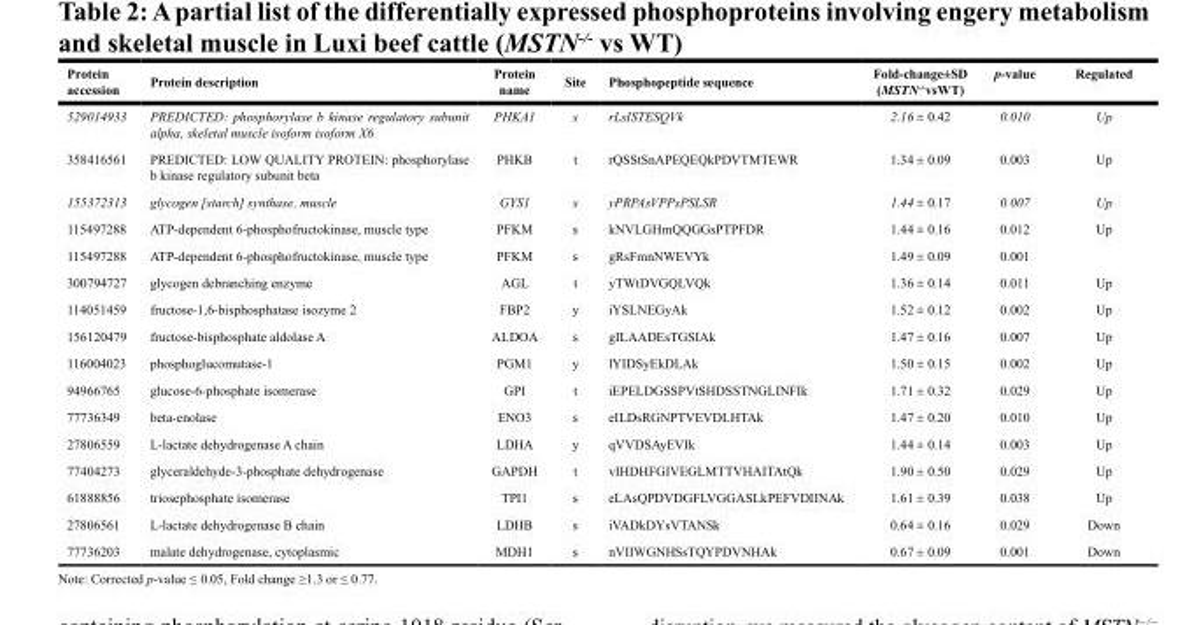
<table><thead><tr><td>Protein accession</td><td>Protein description</td><td>Protein name</td><td>Site</td><td>Phosphopeptide sequence</td><td>Fold-change±SD (MSTN<sup>-/-</sup>vsWT)</td><td>p-value</td><td>Regulated</td></tr></thead><tbody><tr><td>529014933</td><td>PREDICTED: phosphorylase b kinase regulatory subunit alpha, skeletal muscle isoform isoform X6</td><td>PHKA1</td><td>s</td><td>rLsISTESQVk</td><td>2.16 ± 0.42</td><td>0.010</td><td>Up</td></tr><tr><td>358416561</td><td>PREDICTED: LOW QUALITY PROTEIN: phosphorylase b kinase regulatory subunit beta</td><td>PHKB</td><td>t</td><td>rQSStSnAPEQEQkPDVTMTEWR</td><td>1.34 ± 0.09</td><td>0.003</td><td>Up</td></tr><tr><td>155372313</td><td>glycogen [starch] synthase, muscle</td><td>GYS1</td><td>s</td><td>yPRPAsVPPsPSLSR</td><td>1.44 ± 0.17</td><td>0.007</td><td>Up</td></tr><tr><td>115497288</td><td>ATP-dependent 6-phosphofructokinase, muscle type</td><td>PFKM</td><td>s</td><td>kNVLGHmQQGGsPTPFDR</td><td>1.44 ± 0.16</td><td>0.012</td><td>Up</td></tr><tr><td>115497288</td><td>ATP-dependent 6-phosphofructokinase, muscle type</td><td>PFKM</td><td>s</td><td>gRsFmnNWEVYk</td><td>1.49 ± 0.09</td><td>0.001</td><td></td></tr><tr><td>300794727</td><td>glycogen debranching enzyme</td><td>AGL</td><td>t</td><td>yTWtDVGQLVQk</td><td>1.36 ± 0.14</td><td>0.011</td><td>Up</td></tr><tr><td>114051459</td><td>fructose-1,6-bisphosphatase isozyme 2</td><td>FBP2</td><td>y</td><td>iYSLNEGyAk</td><td>1.52 ± 0.12</td><td>0.002</td><td>Up</td></tr><tr><td>156120479</td><td>fructose-bisphosphate aldolase A</td><td>ALDOA</td><td>s</td><td>gILAADEsTGSIAk</td><td>1.47 ± 0.16</td><td>0.007</td><td>Up</td></tr><tr><td>116004023</td><td>phosphoglucomutase-1</td><td>PGM1</td><td>y</td><td>lYIDSyEkDLAk</td><td>1.50 ± 0.15</td><td>0.002</td><td>Up</td></tr><tr><td>94966765</td><td>glucose-6-phosphate isomerase</td><td>GPI</td><td>t</td><td>iEPELDGSSPVtSHDSSTNGLINFIk</td><td>1.71 ± 0.32</td><td>0.029</td><td>Up</td></tr><tr><td>77736349</td><td>beta-enolase</td><td>ENO3</td><td>s</td><td>eILDsRGNPTVEVDLHTAk</td><td>1.47 ± 0.20</td><td>0.010</td><td>Up</td></tr><tr><td>27806559</td><td>L-lactate dehydrogenase A chain</td><td>LDHA</td><td>y</td><td>qVVDSAyEVIk</td><td>1.44 ± 0.14</td><td>0.003</td><td>Up</td></tr><tr><td>77404273</td><td>glyceraldehyde-3-phosphate dehydrogenase</td><td>GAPDH</td><td>t</td><td>vIHDHFGIVEGLMTTVHAITAtQk</td><td>1.90 ± 0.50</td><td>0.029</td><td>Up</td></tr><tr><td>61888856</td><td>triosephosphate isomerase</td><td>TPI1</td><td>s</td><td>eLAsQPDVDGFLVGGASLkPEFVDIINAk</td><td>1.61 ± 0.39</td><td>0.038</td><td>Up</td></tr><tr><td>27806561</td><td>L-lactate dehydrogenase B chain</td><td>LDHB</td><td>s</td><td>iVADkDYsVTANSk</td><td>0.64 ± 0.16</td><td>0.029</td><td>Down</td></tr><tr><td>77736203</td><td>malate dehydrogenase, cytoplasmic</td><td>MDH1</td><td>s</td><td>nVIIWGNHSsTQYPDVNHAk</td><td>0.67 ± 0.09</td><td>0.001</td><td>Down</td></tr></tbody></table>